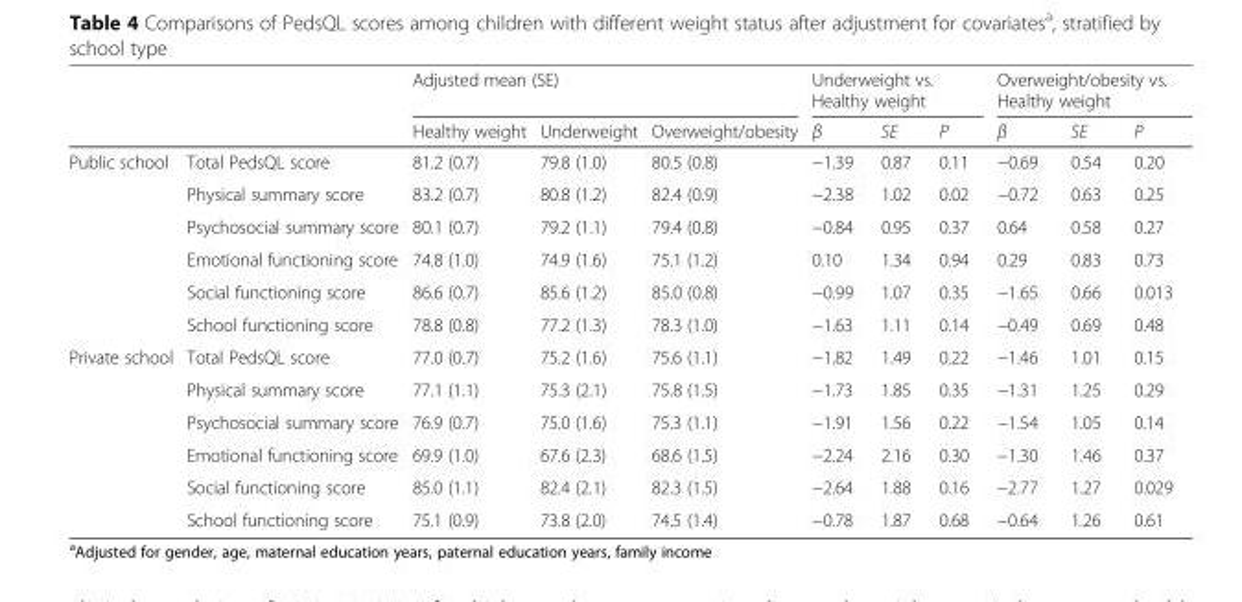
<table><thead><tr><td rowspan="2"></td><td rowspan="2"></td><td colspan="3">Adjusted mean (SE)</td><td colspan="3">Underweight vs. Healthy weight</td><td colspan="3">Overweight/obesity vs. Healthy weight</td></tr><tr><td>Healthy weight</td><td>Underweight</td><td>Overweight/obesity</td><td>β</td><td>SE</td><td>P</td><td>β</td><td>SE</td><td>P</td></tr></thead><tbody><tr><td rowspan="6">Public school</td><td>Total PedsQL score</td><td>81.2 (0.7)</td><td>79.8 (1.0)</td><td>80.5 (0.8)</td><td>−1.39</td><td>0.87</td><td>0.11</td><td>−0.69</td><td>0.54</td><td>0.20</td></tr><tr><td>Physical summary score</td><td>83.2 (0.7)</td><td>80.8 (1.2)</td><td>82.4 (0.9)</td><td>−2.38</td><td>1.02</td><td>0.02</td><td>−0.72</td><td>0.63</td><td>0.25</td></tr><tr><td>Psychosocial summary score</td><td>80.1 (0.7)</td><td>79.2 (1.1)</td><td>79.4 (0.8)</td><td>−0.84</td><td>0.95</td><td>0.37</td><td>0.64</td><td>0.58</td><td>0.27</td></tr><tr><td>Emotional functioning score</td><td>74.8 (1.0)</td><td>74.9 (1.6)</td><td>75.1 (1.2)</td><td>0.10</td><td>1.34</td><td>0.94</td><td>0.29</td><td>0.83</td><td>0.73</td></tr><tr><td>Social functioning score</td><td>86.6 (0.7)</td><td>85.6 (1.2)</td><td>85.0 (0.8)</td><td>−0.99</td><td>1.07</td><td>0.35</td><td>−1.65</td><td>0.66</td><td>0.013</td></tr><tr><td>School functioning score</td><td>78.8 (0.8)</td><td>77.2 (1.3)</td><td>78.3 (1.0)</td><td>−1.63</td><td>1.11</td><td>0.14</td><td>−0.49</td><td>0.69</td><td>0.48</td></tr><tr><td rowspan="6">Private school</td><td>Total PedsQL score</td><td>77.0 (0.7)</td><td>75.2 (1.6)</td><td>75.6 (1.1)</td><td>−1.82</td><td>1.49</td><td>0.22</td><td>−1.46</td><td>1.01</td><td>0.15</td></tr><tr><td>Physical summary score</td><td>77.1 (1.1)</td><td>75.3 (2.1)</td><td>75.8 (1.5)</td><td>−1.73</td><td>1.85</td><td>0.35</td><td>−1.31</td><td>1.25</td><td>0.29</td></tr><tr><td>Psychosocial summary score</td><td>76.9 (0.7)</td><td>75.0 (1.6)</td><td>75.3 (1.1)</td><td>−1.91</td><td>1.56</td><td>0.22</td><td>−1.54</td><td>1.05</td><td>0.14</td></tr><tr><td>Emotional functioning score</td><td>69.9 (1.0)</td><td>67.6 (2.3)</td><td>68.6 (1.5)</td><td>−2.24</td><td>2.16</td><td>0.30</td><td>−1.30</td><td>1.46</td><td>0.37</td></tr><tr><td>Social functioning score</td><td>85.0 (1.1)</td><td>82.4 (2.1)</td><td>82.3 (1.5)</td><td>−2.64</td><td>1.88</td><td>0.16</td><td>−2.77</td><td>1.27</td><td>0.029</td></tr><tr><td>School functioning score</td><td>75.1 (0.9)</td><td>73.8 (2.0)</td><td>74.5 (1.4)</td><td>−0.78</td><td>1.87</td><td>0.68</td><td>−0.64</td><td>1.26</td><td>0.61</td></tr></tbody></table>